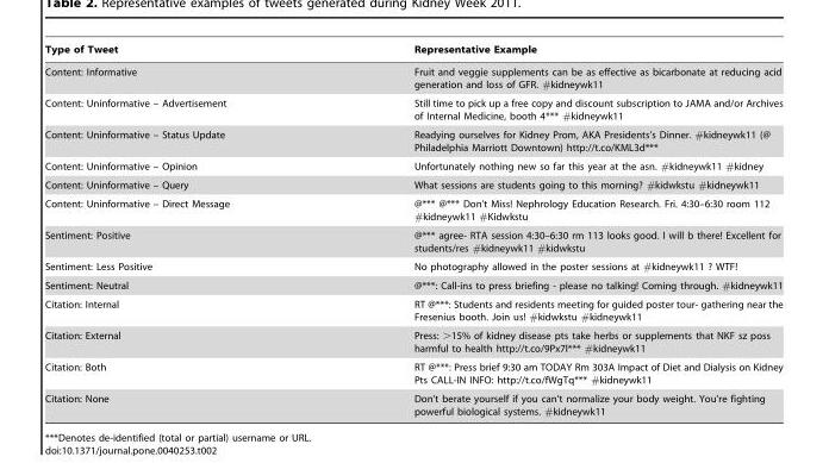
<table><thead><tr><td>Type of Tweet</td><td>Representative Example</td></tr></thead><tbody><tr><td>Content: Informative</td><td>Fruit and veggie supplements can be as effective as bicarbonate at reducing acid generation and loss of GFR. #kidneywk11</td></tr><tr><td>Content: Uninformative – Advertisement</td><td>Still time to pick up a free copy and discount subscription to JAMA and/or Archives of Internal Medicine, booth 4*** #kidneywk11</td></tr><tr><td>Content: Uninformative – Status Update</td><td>Readying ourselves for Kidney Prom, AKA Presidents’s Dinner. #kidneywk11 (@ Philadelphia Marriott Downtown) http://t.co/KML3d***</td></tr><tr><td>Content: Uninformative – Opinion</td><td>Unfortunately nothing new so far this year at the asn. #kidneywk11 #kidney</td></tr><tr><td>Content: Uninformative – Query</td><td>What sessions are students going to this morning? #kidwkstu #kidneywk11</td></tr><tr><td>Content: Uninformative – Direct Message</td><td>@*** @*** Don’t Miss! Nephrology Education Research. Fri. 4:30–6:30 room 112 #kidneywk11 #Kidwkstu</td></tr><tr><td>Sentiment: Positive</td><td>@*** agree- RTA session 4:30–6:30 rm 113 looks good. I will b there! Excellent for students/res #kidneywk11 #kidwkstu</td></tr><tr><td>Sentiment: Less Positive</td><td>No photography allowed in the poster sessions at #kidneywk11 ? WTF!</td></tr><tr><td>Sentiment: Neutral</td><td>@***: Call-ins to press briefing - please no talking! Coming through. #kidneywk11</td></tr><tr><td>Citation: Internal</td><td>RT @***: Students and residents meeting for guided poster tour- gathering near the Fresenius booth. Join us! #kidwkstu #kidneywk11</td></tr><tr><td>Citation: External</td><td>Press: .15% of kidney disease pts take herbs or supplements that NKF sz poss harmful to health http://t.co/9Px7l*** #kidneywk11</td></tr><tr><td>Citation: Both</td><td>RT @***: Press brief 9:30 am TODAY Rm 303A Impact of Diet and Dialysis on Kidney Pts CALL-IN INFO: http://t.co/fWgTq*** #kidneywk11</td></tr><tr><td>Citation: None</td><td>Don’t berate yourself if you can’t normalize your body weight. You’re fighting powerful biological systems. #kidneywk11</td></tr></tbody></table>